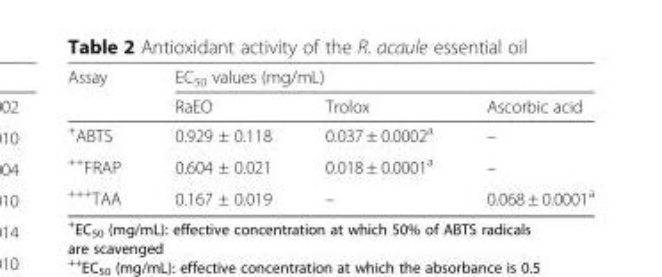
<table><thead><tr><td rowspan="2">Assay</td><td colspan="3">EC<sub>50</sub> values (mg/mL)</td></tr><tr><td>RaEO</td><td>Trolox</td><td>Ascorbic acid</td></tr></thead><tbody><tr><td><sup>+</sup>ABTS</td><td>0.929 ± 0.118</td><td>0.037 ± 0.0002<sup>a</sup></td><td>–</td></tr><tr><td><sup>++</sup>FRAP</td><td>0.604 ± 0.021</td><td>0.018 ± 0.0001<sup>a</sup></td><td>–</td></tr><tr><td><sup>+++</sup>TAA</td><td>0.167 ± 0.019</td><td>–</td><td>0.068 ± 0.0001<sup>a</sup></td></tr></tbody></table>